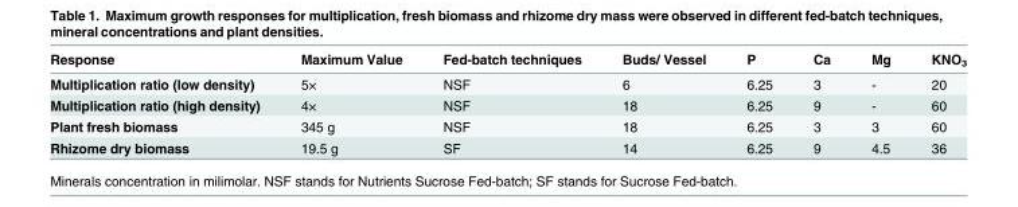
<table><thead><tr><td>Response</td><td>Maximum Value</td><td>Fed-batch techniques</td><td>Buds/ Vessel</td><td>P</td><td>Ca</td><td>Mg</td><td>KNO<sub>3</sub></td></tr></thead><tbody><tr><td>Multiplication ratio (low density)</td><td>5×</td><td>NSF</td><td>6</td><td>6.25</td><td>3</td><td>-</td><td>20</td></tr><tr><td>Multiplication ratio (high density)</td><td>4×</td><td>NSF</td><td>18</td><td>6.25</td><td>9</td><td>-</td><td>60</td></tr><tr><td>Plant fresh biomass</td><td>345 g</td><td>NSF</td><td>18</td><td>6.25</td><td>3</td><td>3</td><td>60</td></tr><tr><td>Rhizome dry biomass</td><td>19.5 g</td><td>SF</td><td>14</td><td>6.25</td><td>9</td><td>4.5</td><td>36</td></tr></tbody></table>